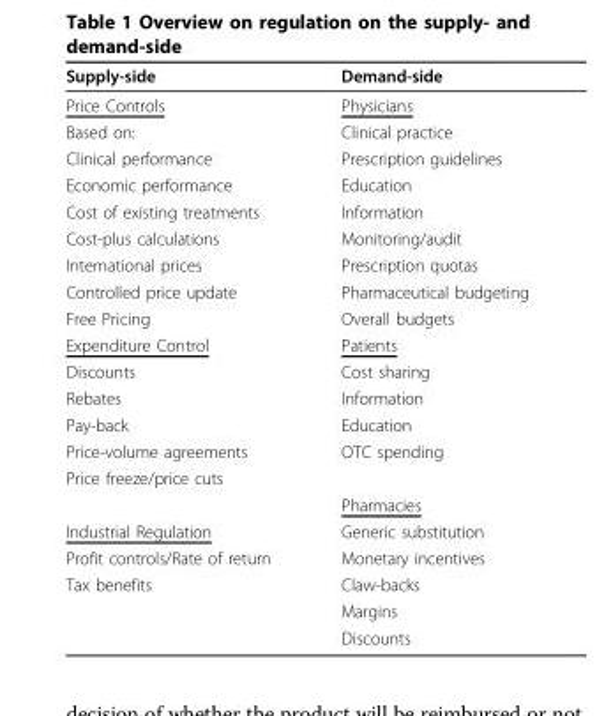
<table><thead><tr><td>Supply-side</td><td>Demand-side</td></tr></thead><tbody><tr><td>Price Controls</td><td>Physicians</td></tr><tr><td>Based on:</td><td>Clinical practice</td></tr><tr><td>Clinical performance</td><td>Prescription guidelines</td></tr><tr><td>Economic performance</td><td>Education</td></tr><tr><td>Cost of existing treatments</td><td>Information</td></tr><tr><td>Cost-plus calculations</td><td>Monitoring/audit</td></tr><tr><td>International prices</td><td>Prescription quotas</td></tr><tr><td>Controlled price update</td><td>Pharmaceutical budgeting</td></tr><tr><td>Free Pricing</td><td>Overall budgets</td></tr><tr><td>Expenditure Control</td><td>Patients</td></tr><tr><td>Discounts</td><td>Cost sharing</td></tr><tr><td>Rebates</td><td>Information</td></tr><tr><td>Pay-back</td><td>Education</td></tr><tr><td>Price-volume agreements</td><td>OTC spending</td></tr><tr><td colspan="2">Price freeze/price cuts</td></tr><tr><td></td><td>Pharmacies</td></tr><tr><td>Industrial Regulation</td><td>Generic substitution</td></tr><tr><td>Profit controls/Rate of return</td><td>Monetary incentives</td></tr><tr><td rowspan="3">Tax benefits</td><td>Claw-backs</td></tr><tr><td>Margins</td></tr><tr><td>Discounts</td></tr></tbody></table>